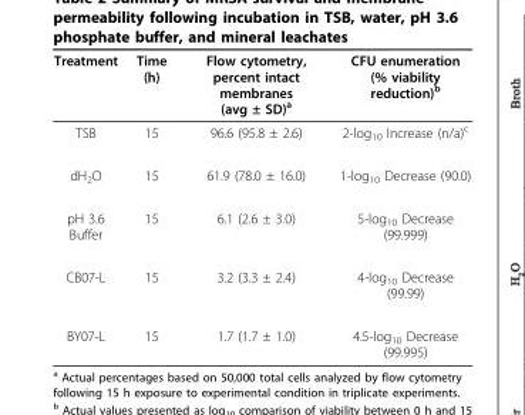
<table><thead><tr><td>Treatment</td><td>Time (h)</td><td>Flow cytometry, percent intact membranes (avg ± SD)<sup>a</sup></td><td>CFU enumeration (% viability reduction)<sup>b</sup></td></tr></thead><tbody><tr><td>TSB</td><td>15</td><td>96.6 (95.8 ± 2.6)</td><td>2-log<sub>10</sub> Increase (n/a)<sup>c</sup></td></tr><tr><td>dH<sub>2</sub>O</td><td>15</td><td>61.9 (78.0 ± 16.0)</td><td>1-log<sub>10</sub> Decrease (90.0)</td></tr><tr><td>pH 3.6 Buffer</td><td>15</td><td>6.1 (2.6 ± 3.0)</td><td>5-log<sub>10</sub> Decrease (99.999)</td></tr><tr><td>CB07-L</td><td>15</td><td>3.2 (3.3 ± 2.4)</td><td>4-log<sub>10</sub> Decrease (99.99)</td></tr><tr><td>BY07-L</td><td>15</td><td>1.7 (1.7 ± 1.0)</td><td>4.5-log<sub>10</sub> Decrease (99.995)</td></tr></tbody></table>